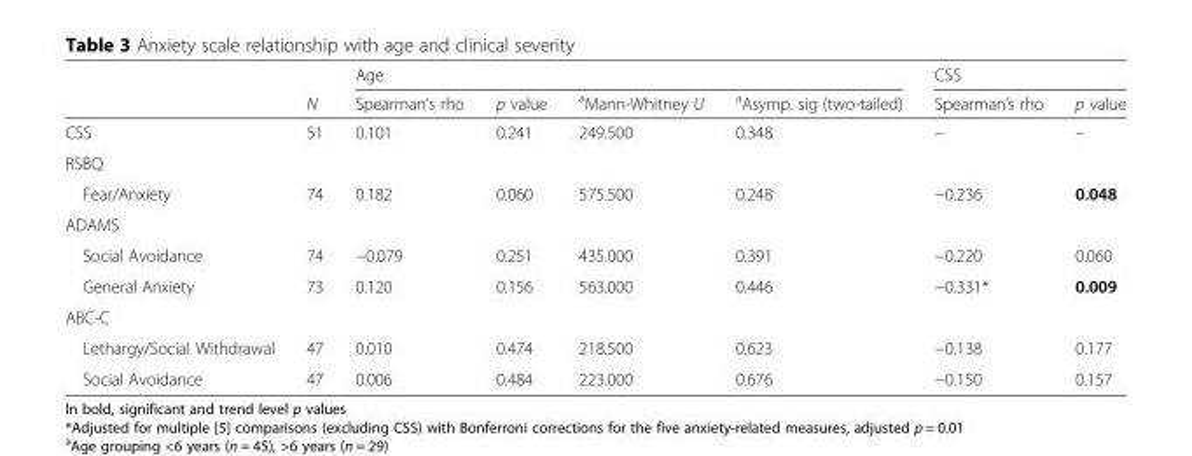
<table><thead><tr><td rowspan="2"></td><td rowspan="2">N</td><td colspan="4">Age</td><td colspan="2">CSS</td></tr><tr><td>Spearman’s rho</td><td>p value</td><td><sup>a</sup>Mann-Whitney U</td><td><sup>a</sup>Asymp. sig (two-tailed)</td><td>Spearman’s rho</td><td>p value</td></tr></thead><tbody><tr><td>CSS</td><td>51</td><td>0.101</td><td>0.241</td><td>249.500</td><td>0.348</td><td>–</td><td>–</td></tr><tr><td colspan="8">RSBQ</td></tr><tr><td>Fear/Anxiety</td><td>74</td><td>0.182</td><td>0.060</td><td>575.500</td><td>0.248</td><td>−0.236</td><td>0.048</td></tr><tr><td colspan="8">ADAMS</td></tr><tr><td>Social Avoidance</td><td>74</td><td>−0.079</td><td>0.251</td><td>435.000</td><td>0.391</td><td>−0.220</td><td>0.060</td></tr><tr><td>General Anxiety</td><td>73</td><td>0.120</td><td>0.156</td><td>563.000</td><td>0.446</td><td>−0.331*</td><td>0.009</td></tr><tr><td colspan="8">ABC-C</td></tr><tr><td>Lethargy/Social Withdrawal</td><td>47</td><td>0.010</td><td>0.474</td><td>218.500</td><td>0.623</td><td>−0.138</td><td>0.177</td></tr><tr><td>Social Avoidance</td><td>47</td><td>0.006</td><td>0.484</td><td>223.000</td><td>0.676</td><td>−0.150</td><td>0.157</td></tr></tbody></table>